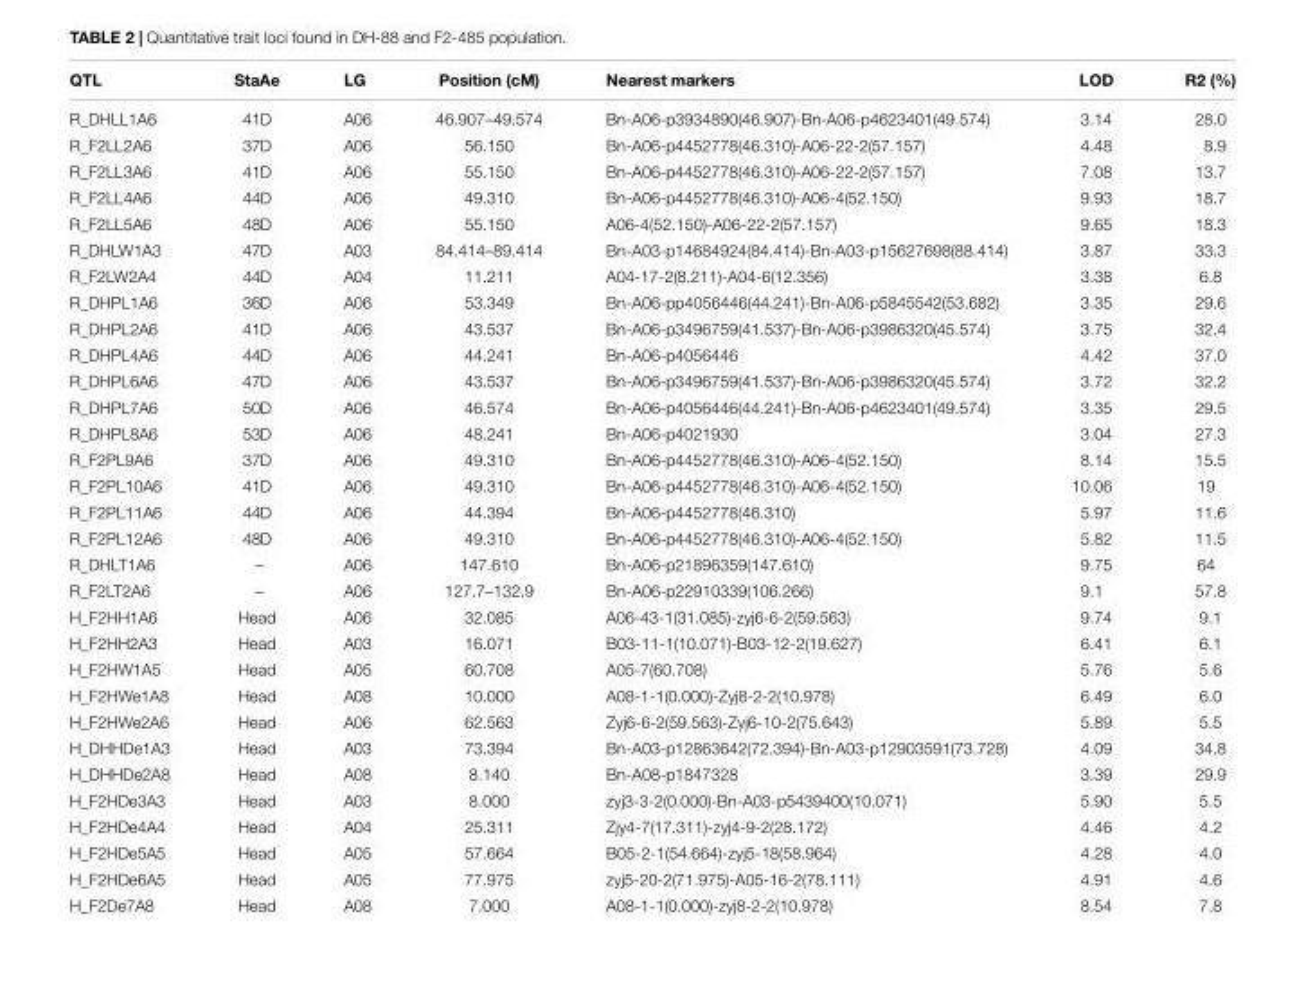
<table><thead><tr><td>QTL</td><td>StaAe</td><td>LG</td><td>Position (cM)</td><td>Nearest markers</td><td>LOD</td><td>R2 (%)</td></tr></thead><tbody><tr><td>R_DHLL1A6</td><td>41D</td><td>A06</td><td>46.907–49.574</td><td>Bn-A06-p3934890(46.907)-Bn-A06-p4623401(49.574)</td><td>3.14</td><td>28.0</td></tr><tr><td>R_F2LL2A6</td><td>37D</td><td>A06</td><td>56.150</td><td>Bn-A06-p4452778(46.310)-A06-22-2(57.157)</td><td>4.48</td><td>8.9</td></tr><tr><td>R_F2LL3A6</td><td>41D</td><td>A06</td><td>55.150</td><td>Bn-A06-p4452778(46.310)-A06-22-2(57.157)</td><td>7.08</td><td>13.7</td></tr><tr><td>R_F2LL4A6</td><td>44D</td><td>A06</td><td>49.310</td><td>Bn-A06-p4452778(46.310)-A06-4(52.150)</td><td>9.93</td><td>18.7</td></tr><tr><td>R_F2LL5A6</td><td>48D</td><td>A06</td><td>55.150</td><td>A06-4(52.150)-A06-22-2(57.157)</td><td>9.65</td><td>18.3</td></tr><tr><td>R_DHLW1A3</td><td>47D</td><td>A03</td><td>84.414–89.414</td><td>Bn-A03-p14684924(84.414)-Bn-A03-p15627698(88.414)</td><td>3.87</td><td>33.3</td></tr><tr><td>R_F2LW2A4</td><td>44D</td><td>A04</td><td>11.211</td><td>A04-17-2(8.211)-A04-6(12.356)</td><td>3.38</td><td>6.8</td></tr><tr><td>R_DHPL1A6</td><td>36D</td><td>A06</td><td>53.349</td><td>Bn-A06-pp4056446(44.241)-Bn-A06-p5845542(53.682)</td><td>3.35</td><td>29.6</td></tr><tr><td>R_DHPL2A6</td><td>41D</td><td>A06</td><td>43.537</td><td>Bn-A06-p3496759(41.537)-Bn-A06-p3986320(45.574)</td><td>3.75</td><td>32.4</td></tr><tr><td>R_DHPL4A6</td><td>44D</td><td>A06</td><td>44.241</td><td>Bn-A06-p4056446</td><td>4.42</td><td>37.0</td></tr><tr><td>R_DHPL6A6</td><td>47D</td><td>A06</td><td>43.537</td><td>Bn-A06-p3496759(41.537)-Bn-A06-p3986320(45.574)</td><td>3.72</td><td>32.2</td></tr><tr><td>R_DHPL7A6</td><td>50D</td><td>A06</td><td>46.574</td><td>Bn-A06-p4056446(44.241)-Bn-A06-p4623401(49.574)</td><td>3.35</td><td>29.5</td></tr><tr><td>R_DHPL8A6</td><td>53D</td><td>A06</td><td>48.241</td><td>Bn-A06-p4021930</td><td>3.04</td><td>27.3</td></tr><tr><td>R_F2PL9A6</td><td>37D</td><td>A06</td><td>49.310</td><td>Bn-A06-p4452778(46.310)-A06-4(52.150)</td><td>8.14</td><td>15.5</td></tr><tr><td>R_F2PL10A6</td><td>41D</td><td>A06</td><td>49.310</td><td>Bn-A06-p4452778(46.310)-A06-4(52.150)</td><td>10.06</td><td>19</td></tr><tr><td>R_F2PL11A6</td><td>44D</td><td>A06</td><td>44.394</td><td>Bn-A06-p4452778(46.310)</td><td>5.97</td><td>11.6</td></tr><tr><td>R_F2PL12A6</td><td>48D</td><td>A06</td><td>49.310</td><td>Bn-A06-p4452778(46.310)-A06-4(52.150)</td><td>5.82</td><td>11.5</td></tr><tr><td>R_DHLT1A6</td><td>–</td><td>A06</td><td>147.610</td><td>Bn-A06-p21896359(147.610)</td><td>9.75</td><td>64</td></tr><tr><td>R_F2LT2A6</td><td>–</td><td>A06</td><td>127.7–132.9</td><td>Bn-A06-p22910339(106.266)</td><td>9.1</td><td>57.8</td></tr><tr><td>H_F2HH1A6</td><td>Head</td><td>A06</td><td>32.085</td><td>A06-43-1(31.085)-zyj6-6-2(59.563)</td><td>9.74</td><td>9.1</td></tr><tr><td>H_F2HH2A3</td><td>Head</td><td>A03</td><td>16.071</td><td>B03-11-1(10.071)-B03-12-2(19.627)</td><td>6.41</td><td>6.1</td></tr><tr><td>H_F2HW1A5</td><td>Head</td><td>A05</td><td>60.708</td><td>A05-7(60.708)</td><td>5.76</td><td>5.6</td></tr><tr><td>H_F2HWe1A8</td><td>Head</td><td>A08</td><td>10.000</td><td>A08-1-1(0.000)-Zyj8-2-2(10.978)</td><td>6.49</td><td>6.0</td></tr><tr><td>H_F2HWe2A6</td><td>Head</td><td>A06</td><td>62.563</td><td>Zyj6-6-2(59.563)-Zyj6-10-2(75.643)</td><td>5.89</td><td>5.5</td></tr><tr><td>H_DHHDe1A3</td><td>Head</td><td>A03</td><td>73.394</td><td>Bn-A03-p12863642(72.394)-Bn-A03-p12903591(73.728)</td><td>4.09</td><td>34.8</td></tr><tr><td>H_DHHDe2A8</td><td>Head</td><td>A08</td><td>8.140</td><td>Bn-A08-p1847328</td><td>3.39</td><td>29.9</td></tr><tr><td>H_F2HDe3A3</td><td>Head</td><td>A03</td><td>8.000</td><td>zyj3-3-2(0.000)-Bn-A03-p5439400(10.071)</td><td>5.90</td><td>5.5</td></tr><tr><td>H_F2HDe4A4</td><td>Head</td><td>A04</td><td>25.311</td><td>Zjy4-7(17.311)-zyj4-9-2(28.172)</td><td>4.46</td><td>4.2</td></tr><tr><td>H_F2HDe5A5</td><td>Head</td><td>A05</td><td>57.664</td><td>B05-2-1(54.664)-zyj5-18(58.964)</td><td>4.28</td><td>4.0</td></tr><tr><td>H_F2HDe6A5</td><td>Head</td><td>A05</td><td>77.975</td><td>zyj5-20-2(71.975)-A05-16-2(78.111)</td><td>4.91</td><td>4.6</td></tr><tr><td>H_F2De7A8</td><td>Head</td><td>A08</td><td>7.000</td><td>A08-1-1(0.000)-zyj8-2-2(10.978)</td><td>8.54</td><td>7.8</td></tr></tbody></table>